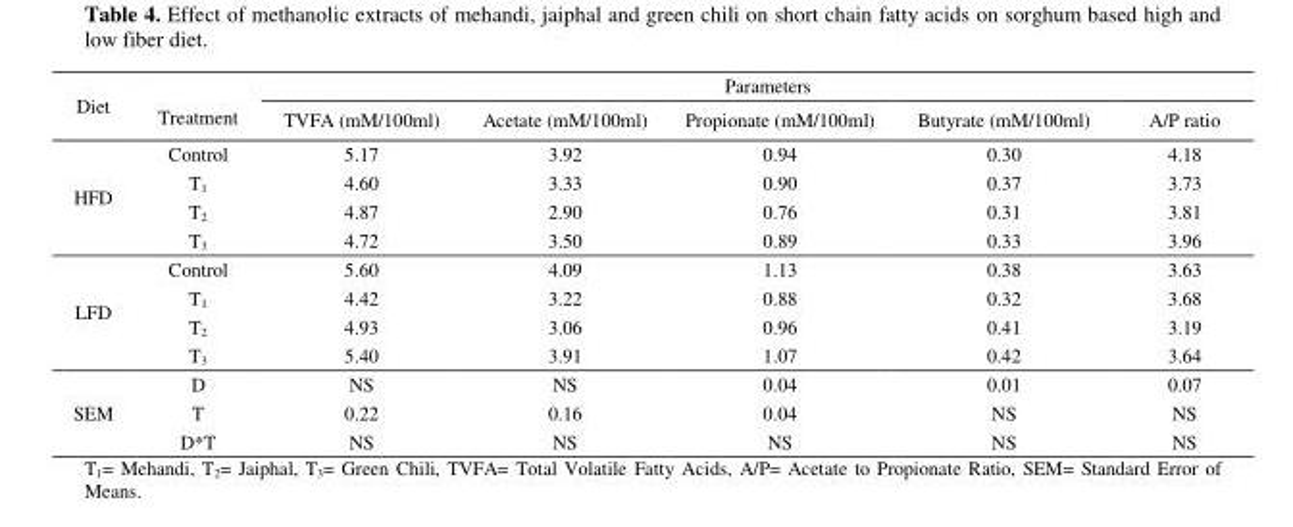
<table><thead><tr><td rowspan="2">Diet</td><td rowspan="2">Treatment</td><td colspan="5">Parameters</td></tr><tr><td>TVFA (mM/100ml)</td><td>Acetate (mM/100ml)</td><td>Propionate (mM/100ml)</td><td>Butyrate (mM/100ml)</td><td>A/P ratio</td></tr></thead><tbody><tr><td rowspan="4">HFD</td><td>Control</td><td>5.17</td><td>3.92</td><td>0.94</td><td>0.30</td><td>4.18</td></tr><tr><td>T<sub>1</sub></td><td>4.60</td><td>3.33</td><td>0.90</td><td>0.37</td><td>3.73</td></tr><tr><td>T<sub>2</sub></td><td>4.87</td><td>2.90</td><td>0.76</td><td>0.31</td><td>3.81</td></tr><tr><td>T<sub>3</sub></td><td>4.72</td><td>3.50</td><td>0.89</td><td>0.33</td><td>3.96</td></tr><tr><td rowspan="4">LFD</td><td>Control</td><td>5.60</td><td>4.09</td><td>1.13</td><td>0.38</td><td>3.63</td></tr><tr><td>T<sub>1</sub></td><td>4.42</td><td>3.22</td><td>0.88</td><td>0.32</td><td>3.68</td></tr><tr><td>T<sub>2</sub></td><td>4.93</td><td>3.06</td><td>0.96</td><td>0.41</td><td>3.19</td></tr><tr><td>T<sub>3</sub></td><td>5.40</td><td>3.91</td><td>1.07</td><td>0.42</td><td>3.64</td></tr><tr><td rowspan="3">SEM</td><td>D</td><td>NS</td><td>NS</td><td>0.04</td><td>0.01</td><td>0.07</td></tr><tr><td>T</td><td>0.22</td><td>0.16</td><td>0.04</td><td>NS</td><td>NS</td></tr><tr><td>D*T</td><td>NS</td><td>NS</td><td>NS</td><td>NS</td><td>NS</td></tr></tbody></table>